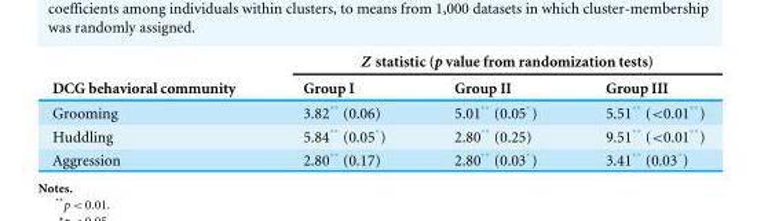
<table><thead><tr><td rowspan="2">DCG behavioral community</td><td colspan="3">Z statistic (p value from randomization tests)</td></tr><tr><td>Group I</td><td>Group II</td><td>Group III</td></tr></thead><tbody><tr><td>Grooming</td><td>3.82** (0.06)</td><td>5.01** (0.05*)</td><td>5.51** (&lt;0.01**)</td></tr><tr><td>Huddling</td><td>5.84** (0.05*)</td><td>2.80** (0.25)</td><td>9.51** (&lt;0.01**)</td></tr><tr><td>Aggression</td><td>2.80** (0.17)</td><td>2.80** (0.03*)</td><td>3.41** (0.03*)</td></tr></tbody></table>